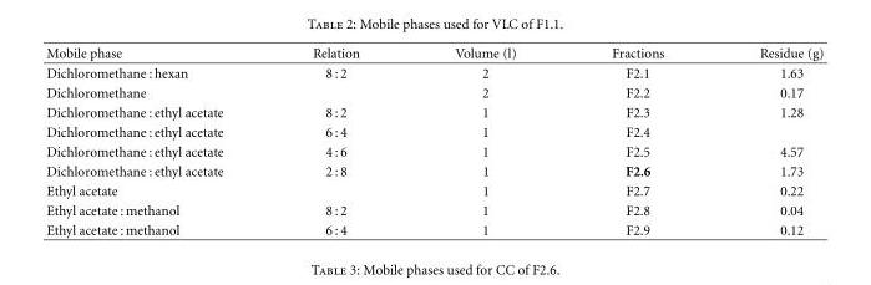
<table><thead><tr><td>Mobile phase</td><td>Relation</td><td>Volume (l)</td><td>Fractions</td><td>Residue (g)</td></tr></thead><tbody><tr><td>Dichloromethane : hexan</td><td>8 : 2</td><td>2</td><td>F2.1</td><td>1.63</td></tr><tr><td>Dichloromethane</td><td></td><td>2</td><td>F2.2</td><td>0.17</td></tr><tr><td>Dichloromethane : ethyl acetate</td><td>8 : 2</td><td>1</td><td>F2.3</td><td>1.28</td></tr><tr><td>Dichloromethane : ethyl acetate</td><td>6 : 4</td><td>1</td><td>F2.4</td><td></td></tr><tr><td>Dichloromethane : ethyl acetate</td><td>4 : 6</td><td>1</td><td>F2.5</td><td>4.57</td></tr><tr><td>Dichloromethane : ethyl acetate</td><td>2 : 8</td><td>1</td><td>F2.6</td><td>1.73</td></tr><tr><td>Ethyl acetate</td><td></td><td>1</td><td>F2.7</td><td>0.22</td></tr><tr><td>Ethyl acetate : methanol</td><td>8 : 2</td><td>1</td><td>F2.8</td><td>0.04</td></tr><tr><td>Ethyl acetate : methanol</td><td>6 : 4</td><td>1</td><td>F2.9</td><td>0.12</td></tr></tbody></table>